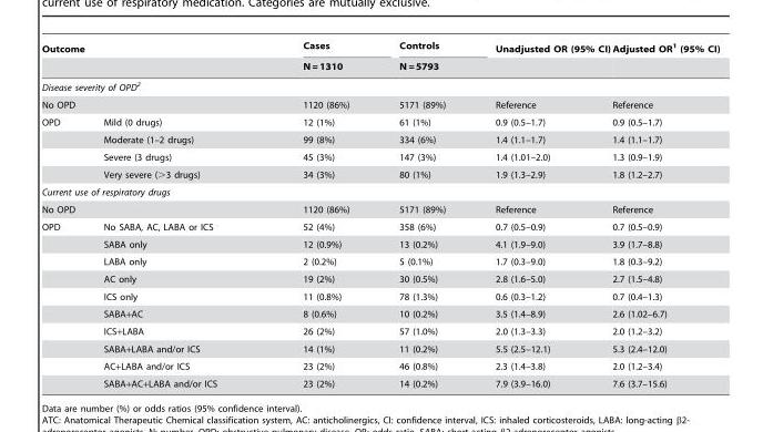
<table><thead><tr><td colspan="2">Outcome</td><td rowspan="2">Cases N = 1310</td><td rowspan="2">Controls N = 5793</td><td rowspan="2">Unadjusted OR (95% CI)</td><td rowspan="2">Adjusted OR<sup>1</sup> (95% CI)</td></tr><tr><td></td><td></td></tr></thead><tbody><tr><td colspan="6">Disease severity of OPD2</td></tr><tr><td colspan="2">No OPD</td><td>1120 (86%)</td><td>5171 (89%)</td><td>Reference</td><td>Reference</td></tr><tr><td rowspan="4">OPD</td><td>Mild (0 drugs)</td><td>12 (1%)</td><td>61 (1%)</td><td>0.9 (0.5–1.7)</td><td>0.9 (0.5–1.7)</td></tr><tr><td>Moderate (1–2 drugs)</td><td>99 (8%)</td><td>334 (6%)</td><td>1.4 (1.1–1.7)</td><td>1.4 (1.1–1.7)</td></tr><tr><td>Severe (3 drugs)</td><td>45 (3%)</td><td>147 (3%)</td><td>1.4 (1.01–2.0)</td><td>1.3 (0.9–1.9)</td></tr><tr><td>Very severe (&gt;3 drugs)</td><td>34 (3%)</td><td>80 (1%)</td><td>1.9 (1.3–2.9)</td><td>1.8 (1.2–2.7)</td></tr><tr><td colspan="6">Current use of respiratory drugs</td></tr><tr><td colspan="2">No OPD</td><td>1120 (86%)</td><td>5171 (89%)</td><td>Reference</td><td>Reference</td></tr><tr><td rowspan="10">OPD</td><td>No SABA, AC, LABA or ICS</td><td>52 (4%)</td><td>358 (6%)</td><td>0.7 (0.5–0.9)</td><td>0.7 (0.5–0.9)</td></tr><tr><td>SABA only</td><td>12 (0.9%)</td><td>13 (0.2%)</td><td>4.1 (1.9–9.0)</td><td>3.9 (1.7–8.8)</td></tr><tr><td>LABA only</td><td>2 (0.2%)</td><td>5 (0.1%)</td><td>1.7 (0.3–9.0)</td><td>1.8 (0.3–9.2)</td></tr><tr><td>AC only</td><td>19 (2%)</td><td>30 (0.5%)</td><td>2.8 (1.6–5.0)</td><td>2.7 (1.5–4.8)</td></tr><tr><td>ICS only</td><td>11 (0.8%)</td><td>78 (1.3%)</td><td>0.6 (0.3–1.2)</td><td>0.7 (0.4–1.3)</td></tr><tr><td>SABA+AC</td><td>8 (0.6%)</td><td>10 (0.2%)</td><td>3.5 (1.4–8.9)</td><td>2.6 (1.02–6.7)</td></tr><tr><td>ICS+LABA</td><td>26 (2%)</td><td>57 (1.0%)</td><td>2.0 (1.3–3.3)</td><td>2.0 (1.2–3.2)</td></tr><tr><td>SABA+LABA and/or ICS</td><td>14 (1%)</td><td>11 (0.2%)</td><td>5.5 (2.5–12.1)</td><td>5.3 (2.4–12.0)</td></tr><tr><td>AC+LABA and/or ICS</td><td>23 (2%)</td><td>46 (0.8%)</td><td>2.3 (1.4–3.8)</td><td>2.0 (1.2–3.4)</td></tr><tr><td>SABA+AC+LABA and/or ICS</td><td>23 (2%)</td><td>14 (0.2%)</td><td>7.9 (3.9–16.0)</td><td>7.6 (3.7–15.6)</td></tr></tbody></table>